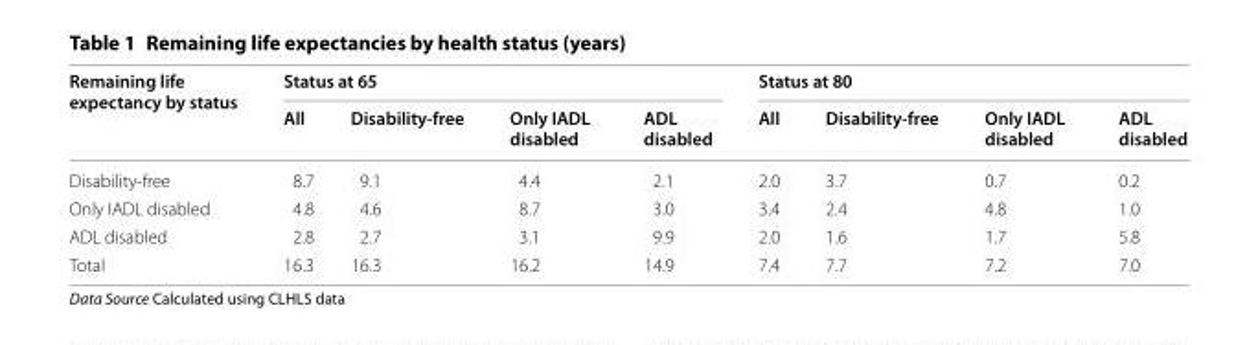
<table><thead><tr><td rowspan="2">Remaining life expectancy by status</td><td colspan="4">Status at 65</td><td colspan="4">Status at 80</td></tr><tr><td>All</td><td>Disability-free</td><td>Only IADL disabled</td><td>ADL disabled</td><td>All</td><td>Disability-free</td><td>Only IADL disabled</td><td>ADL disabled</td></tr></thead><tbody><tr><td>Disability‑free</td><td>8.7</td><td>9.1</td><td>4.4</td><td>2.1</td><td>2.0</td><td>3.7</td><td>0.7</td><td>0.2</td></tr><tr><td>Only IADL disabled</td><td>4.8</td><td>4.6</td><td>8.7</td><td>3.0</td><td>3.4</td><td>2.4</td><td>4.8</td><td>1.0</td></tr><tr><td>ADL disabled</td><td>2.8</td><td>2.7</td><td>3.1</td><td>9.9</td><td>2.0</td><td>1.6</td><td>1.7</td><td>5.8</td></tr><tr><td>Total</td><td>16.3</td><td>16.3</td><td>16.2</td><td>14.9</td><td>7.4</td><td>7.7</td><td>7.2</td><td>7.0</td></tr></tbody></table>